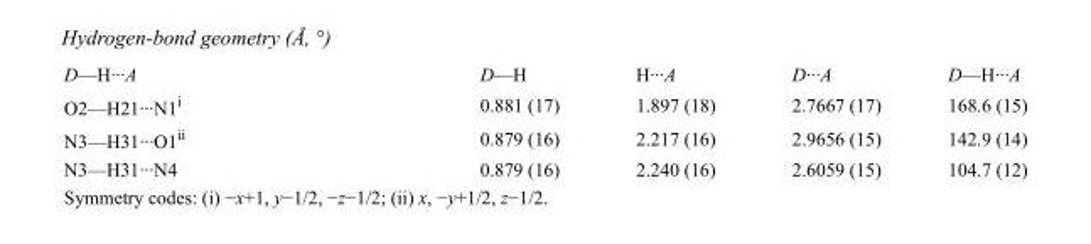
<table><tbody><tr><td>D—H···A</td><td>D—H</td><td>H···A</td><td>D···A</td><td>D—H···A</td></tr><tr><td>O2—H21···N1<sup>i</sup></td><td>0.881 (17)</td><td>1.897 (18)</td><td>2.7667 (17)</td><td>168.6 (15)</td></tr><tr><td>N3—H31···O1<sup>ii</sup></td><td>0.879 (16)</td><td>2.217 (16)</td><td>2.9656 (15)</td><td>142.9 (14)</td></tr><tr><td>N3—H31···N4</td><td>0.879 (16)</td><td>2.240 (16)</td><td>2.6059 (15)</td><td>104.7 (12)</td></tr></tbody></table>